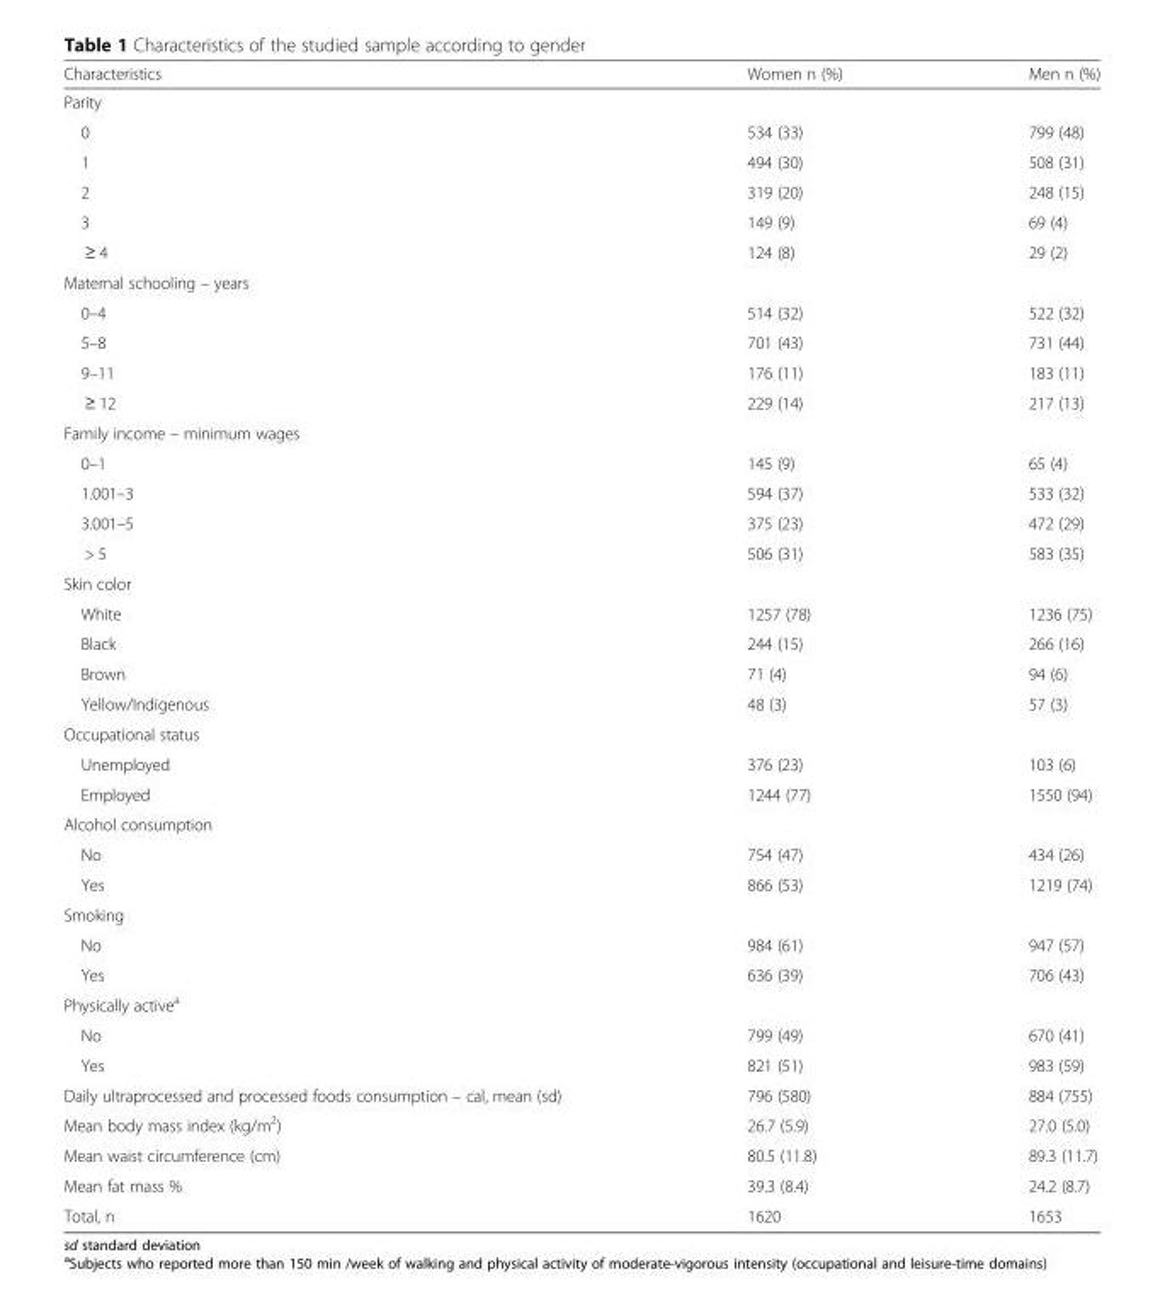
<table><thead><tr><td>Characteristics</td><td>Women n (%)</td><td>Men n (%)</td></tr></thead><tbody><tr><td colspan="3">Parity</td></tr><tr><td>0</td><td>534 (33)</td><td>799 (48)</td></tr><tr><td>1</td><td>494 (30)</td><td>508 (31)</td></tr><tr><td>2</td><td>319 (20)</td><td>248 (15)</td></tr><tr><td>3</td><td>149 (9)</td><td>69 (4)</td></tr><tr><td>≥ 4</td><td>124 (8)</td><td>29 (2)</td></tr><tr><td colspan="3">Maternal schooling – years</td></tr><tr><td>0–4</td><td>514 (32)</td><td>522 (32)</td></tr><tr><td>5–8</td><td>701 (43)</td><td>731 (44)</td></tr><tr><td>9–11</td><td>176 (11)</td><td>183 (11)</td></tr><tr><td>≥ 12</td><td>229 (14)</td><td>217 (13)</td></tr><tr><td colspan="3">Family income – minimum wages</td></tr><tr><td>0–1</td><td>145 (9)</td><td>65 (4)</td></tr><tr><td>1.001–3</td><td>594 (37)</td><td>533 (32)</td></tr><tr><td>3.001–5</td><td>375 (23)</td><td>472 (29)</td></tr><tr><td>&gt; 5</td><td>506 (31)</td><td>583 (35)</td></tr><tr><td colspan="3">Skin color</td></tr><tr><td>White</td><td>1257 (78)</td><td>1236 (75)</td></tr><tr><td>Black</td><td>244 (15)</td><td>266 (16)</td></tr><tr><td>Brown</td><td>71 (4)</td><td>94 (6)</td></tr><tr><td>Yellow/Indigenous</td><td>48 (3)</td><td>57 (3)</td></tr><tr><td colspan="3">Occupational status</td></tr><tr><td>Unemployed</td><td>376 (23)</td><td>103 (6)</td></tr><tr><td>Employed</td><td>1244 (77)</td><td>1550 (94)</td></tr><tr><td colspan="3">Alcohol consumption</td></tr><tr><td>No</td><td>754 (47)</td><td>434 (26)</td></tr><tr><td>Yes</td><td>866 (53)</td><td>1219 (74)</td></tr><tr><td colspan="3">Smoking</td></tr><tr><td>No</td><td>984 (61)</td><td>947 (57)</td></tr><tr><td>Yes</td><td>636 (39)</td><td>706 (43)</td></tr><tr><td colspan="3">Physically active<sup>a</sup></td></tr><tr><td>No</td><td>799 (49)</td><td>670 (41)</td></tr><tr><td>Yes</td><td>821 (51)</td><td>983 (59)</td></tr><tr><td>Daily ultraprocessed and processed foods consumption – cal, mean (sd)</td><td>796 (580)</td><td>884 (755)</td></tr><tr><td>Mean body mass index (kg/m<sup>2</sup>)</td><td>26.7 (5.9)</td><td>27.0 (5.0)</td></tr><tr><td>Mean waist circumference (cm)</td><td>80.5 (11.8)</td><td>89.3 (11.7)</td></tr><tr><td>Mean fat mass %</td><td>39.3 (8.4)</td><td>24.2 (8.7)</td></tr><tr><td>Total, n</td><td>1620</td><td>1653</td></tr></tbody></table>